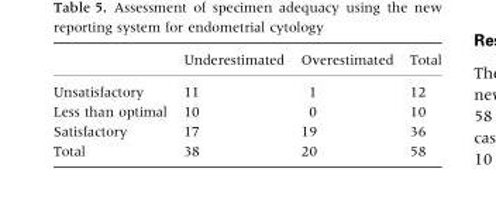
<table><thead><tr><td></td><td>Underestimated</td><td>Overestimated</td><td>Total</td></tr></thead><tbody><tr><td>Unsatisfactory</td><td>11</td><td>1</td><td>12</td></tr><tr><td>Less than optimal</td><td>10</td><td>0</td><td>10</td></tr><tr><td>Satisfactory</td><td>17</td><td>19</td><td>36</td></tr><tr><td>Total</td><td>38</td><td>20</td><td>58</td></tr></tbody></table>